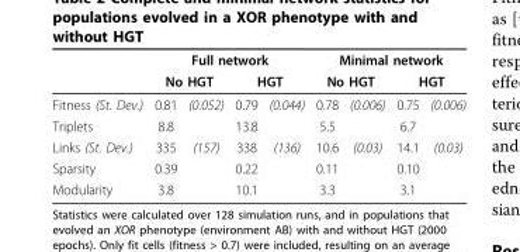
<table><thead><tr><td rowspan="3">Fitness (St. Dev.)</td><td colspan="4">Full network</td><td colspan="4">Minimal network</td></tr><tr><td colspan="2">No HGT</td><td colspan="2">HGT</td><td colspan="2">No HGT</td><td colspan="2">HGT</td></tr><tr><td>0.81</td><td>(0.052)</td><td>0.79</td><td>(0.044)</td><td>0.78</td><td>(0.006)</td><td>0.75</td><td>(0.006)</td></tr></thead><tbody><tr><td>Triplets</td><td>8.8</td><td></td><td>13.8</td><td></td><td>5.5</td><td></td><td>6.7</td><td></td></tr><tr><td>Links (St. Dev.)</td><td>335</td><td>(157)</td><td>338</td><td>(136)</td><td>10.6</td><td>(0.03)</td><td>14.1</td><td>(0.03)</td></tr><tr><td>Sparsity</td><td>0.39</td><td></td><td>0.22</td><td></td><td>0.11</td><td></td><td>0.10</td><td></td></tr><tr><td>Modularity</td><td>3.8</td><td></td><td>10.1</td><td></td><td>3.3</td><td></td><td>3.1</td><td></td></tr></tbody></table>